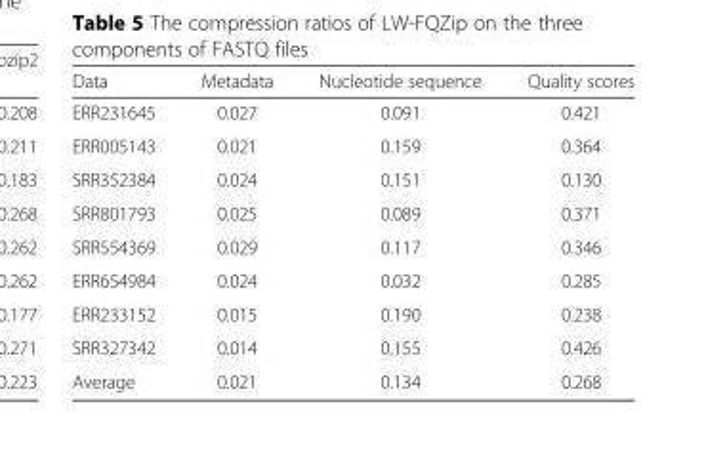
<table><thead><tr><td>Data</td><td>Metadata</td><td>Nucleotide sequence</td><td>Quality scores</td></tr></thead><tbody><tr><td>ERR231645</td><td>0.027</td><td>0.091</td><td>0.421</td></tr><tr><td>ERR005143</td><td>0.021</td><td>0.159</td><td>0.364</td></tr><tr><td>SRR352384</td><td>0.024</td><td>0.151</td><td>0.130</td></tr><tr><td>SRR801793</td><td>0.025</td><td>0.089</td><td>0.371</td></tr><tr><td>SRR554369</td><td>0.029</td><td>0.117</td><td>0.346</td></tr><tr><td>ERR654984</td><td>0.024</td><td>0.032</td><td>0.285</td></tr><tr><td>ERR233152</td><td>0.015</td><td>0.190</td><td>0.238</td></tr><tr><td>SRR327342</td><td>0.014</td><td>0.155</td><td>0.426</td></tr><tr><td>Average</td><td>0.021</td><td>0.134</td><td>0.268</td></tr></tbody></table>